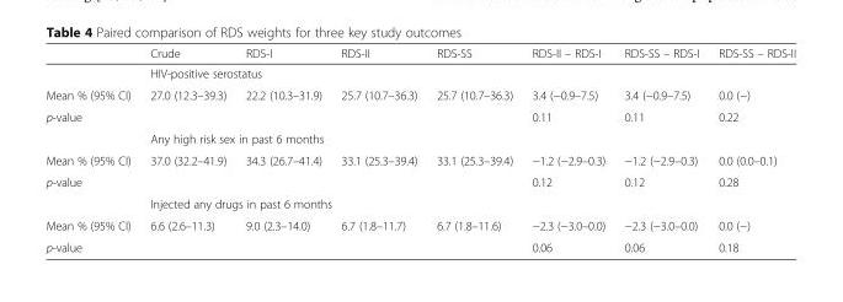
<table><thead><tr><td></td><td>Crude</td><td>RDS-I</td><td>RDS-II</td><td>RDS-SS</td><td>RDS-II – RDS-I</td><td>RDS-SS – RDS-I</td><td>RDS-SS – RDS-II</td></tr></thead><tbody><tr><td></td><td colspan="7">HIV-positive serostatus</td></tr><tr><td>Mean % (95% CI)</td><td>27.0 (12.3–39.3)</td><td>22.2 (10.3–31.9)</td><td>25.7 (10.7–36.3)</td><td>25.7 (10.7–36.3)</td><td>3.4 (−0.9–7.5)</td><td>3.4 (−0.9–7.5)</td><td>0.0 (−)</td></tr><tr><td rowspan="2">p-value</td><td></td><td></td><td></td><td></td><td>0.11</td><td>0.11</td><td>0.22</td></tr><tr><td colspan="7">Any high risk sex in past 6 months</td></tr><tr><td>Mean % (95% CI)</td><td>37.0 (32.2–41.9)</td><td>34.3 (26.7–41.4)</td><td>33.1 (25.3–39.4)</td><td>33.1 (25.3–39.4)</td><td>−1.2 (−2.9–0.3)</td><td>−1.2 (−2.9–0.3)</td><td>0.0 (0.0–0.1)</td></tr><tr><td rowspan="2">p-value</td><td></td><td></td><td></td><td></td><td>0.12</td><td>0.12</td><td>0.28</td></tr><tr><td colspan="7">Injected any drugs in past 6 months</td></tr><tr><td>Mean % (95% CI)</td><td>6.6 (2.6–11.3)</td><td>9.0 (2.3–14.0)</td><td>6.7 (1.8–11.7)</td><td>6.7 (1.8–11.6)</td><td>−2.3 (−3.0–0.0)</td><td>−2.3 (−3.0–0.0)</td><td>0.0 (−)</td></tr><tr><td>p-value</td><td></td><td></td><td></td><td></td><td>0.06</td><td>0.06</td><td>0.18</td></tr></tbody></table>